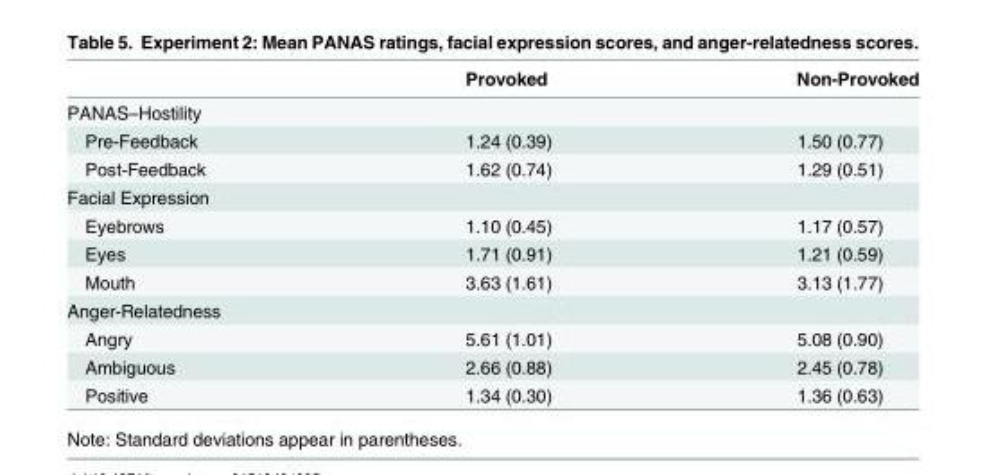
<table><thead><tr><td></td><td>Provoked</td><td>Non-Provoked</td></tr></thead><tbody><tr><td colspan="3">PANAS–Hostility</td></tr><tr><td>Pre-Feedback</td><td>1.24 (0.39)</td><td>1.50 (0.77)</td></tr><tr><td>Post-Feedback</td><td>1.62 (0.74)</td><td>1.29 (0.51)</td></tr><tr><td colspan="3">Facial Expression</td></tr><tr><td>Eyebrows</td><td>1.10 (0.45)</td><td>1.17 (0.57)</td></tr><tr><td>Eyes</td><td>1.71 (0.91)</td><td>1.21 (0.59)</td></tr><tr><td>Mouth</td><td>3.63 (1.61)</td><td>3.13 (1.77)</td></tr><tr><td colspan="3">Anger-Relatedness</td></tr><tr><td>Angry</td><td>5.61 (1.01)</td><td>5.08 (0.90)</td></tr><tr><td>Ambiguous</td><td>2.66 (0.88)</td><td>2.45 (0.78)</td></tr><tr><td>Positive</td><td>1.34 (0.30)</td><td>1.36 (0.63)</td></tr></tbody></table>